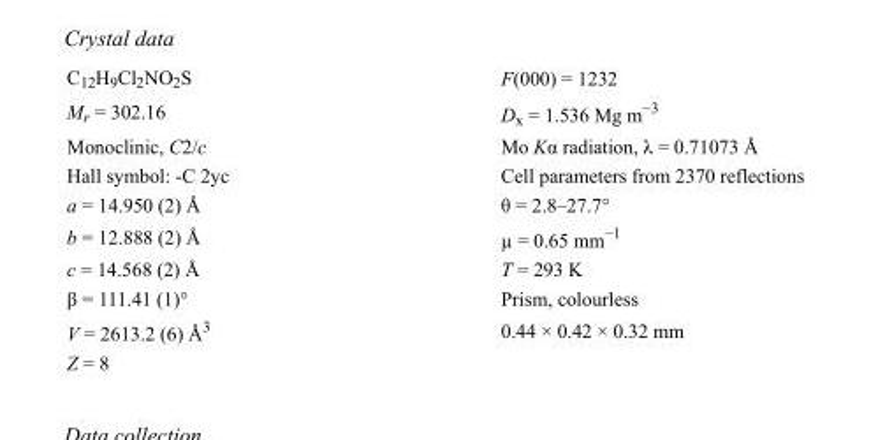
<table><tbody><tr><td>C<sub>12</sub>H<sub>9</sub>Cl<sub>2</sub>NO<sub>2</sub>S</td><td>F(000) = 1232</td></tr><tr><td>M<sub>r</sub> = 302.16</td><td>D<sub>x</sub> = 1.536 Mg m<sup>−3</sup></td></tr><tr><td>Monoclinic, C2/c</td><td>Mo Kα radiation, λ = 0.71073 Å</td></tr><tr><td>Hall symbol: -C 2yc</td><td>Cell parameters from 2370 reflections</td></tr><tr><td>a = 14.950 (2) Å</td><td>θ = 2.8–27.7°</td></tr><tr><td>b = 12.888 (2) Å</td><td>µ = 0.65 mm<sup>−1</sup></td></tr><tr><td>c = 14.568 (2) Å</td><td>T = 293 K</td></tr><tr><td>β = 111.41 (1)°</td><td>Prism, colourless</td></tr><tr><td>V = 2613.2 (6) Å<sup>3</sup></td><td>0.44 × 0.42 × 0.32 mm</td></tr><tr><td>Z = 8</td><td></td></tr></tbody></table>